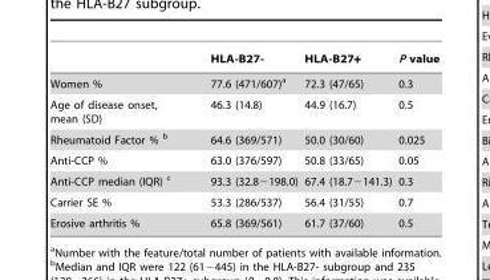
<table><thead><tr><td></td><td>HLA-B27-</td><td>HLA-B27+</td><td>P value</td></tr></thead><tbody><tr><td>Women %</td><td>77.6 (471/607)<sup>a</sup></td><td>72.3 (47/65)</td><td>0.3</td></tr><tr><td>Age of disease onset, mean (SD)</td><td>46.3 (14.8)</td><td>44.9 (16.7)</td><td>0.5</td></tr><tr><td>Rheumatoid Factor % b</td><td>64.6 (369/571)</td><td>50.0 (30/60)</td><td>0.025</td></tr><tr><td>Anti-CCP %</td><td>63.0 (376/597)</td><td>50.8 (33/65)</td><td>0.05</td></tr><tr><td>Anti-CCP median (IQR) c</td><td>93.3 (32.8−198.0)</td><td>67.4 (18.7−141.3)</td><td>0.3</td></tr><tr><td>Carrier SE %</td><td>53.3 (286/537)</td><td>56.4 (31/55)</td><td>0.7</td></tr><tr><td>Erosive arthritis %</td><td>65.8 (369/561)</td><td>61.7 (37/60)</td><td>0.5</td></tr></tbody></table>